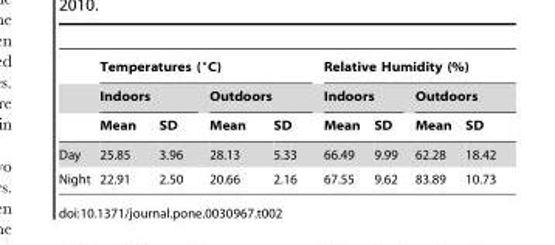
<table><thead><tr><td rowspan="3"></td><td colspan="4">Temperatures (°C)</td><td colspan="4">Relative Humidity (%)</td></tr><tr><td colspan="2">Indoors</td><td colspan="2">Outdoors</td><td colspan="2">Indoors</td><td colspan="2">Outdoors</td></tr><tr><td>Mean</td><td>SD</td><td>Mean</td><td>SD</td><td>Mean</td><td>SD</td><td>Mean</td><td>SD</td></tr></thead><tbody><tr><td>Day</td><td>25.85</td><td>3.96</td><td>28.13</td><td>5.33</td><td>66.49</td><td>9.99</td><td>62.28</td><td>18.42</td></tr><tr><td>Night</td><td>22.91</td><td>2.50</td><td>20.66</td><td>2.16</td><td>67.55</td><td>9.62</td><td>83.89</td><td>10.73</td></tr></tbody></table>